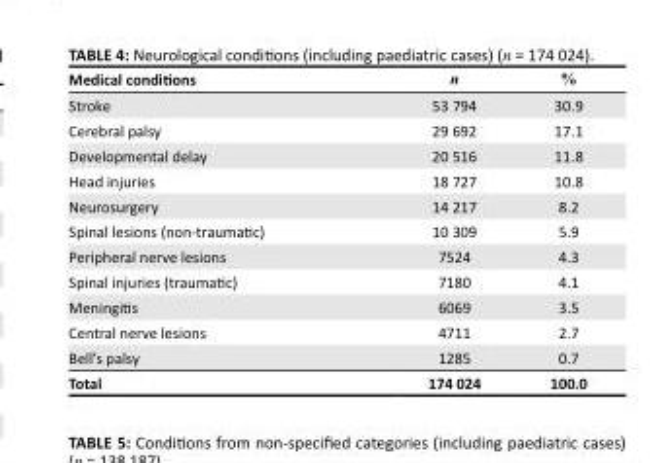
<table><thead><tr><td>Medical conditions</td><td>n</td><td>%</td></tr></thead><tbody><tr><td>Stroke</td><td>53 794</td><td>30.9</td></tr><tr><td>Cerebral palsy</td><td>29 692</td><td>17.1</td></tr><tr><td>Developmental delay</td><td>20 516</td><td>11.8</td></tr><tr><td>Head injuries</td><td>18 727</td><td>10.8</td></tr><tr><td>Neurosurgery</td><td>14 217</td><td>8.2</td></tr><tr><td>Spinal lesions (non-traumatic)</td><td>10 309</td><td>5.9</td></tr><tr><td>Peripheral nerve lesions</td><td>7524</td><td>4.3</td></tr><tr><td>Spinal injuries (traumatic)</td><td>7180</td><td>4.1</td></tr><tr><td>Meningitis</td><td>6069</td><td>3.5</td></tr><tr><td>Central nerve lesions</td><td>4711</td><td>2.7</td></tr><tr><td>Bell’s palsy</td><td>1285</td><td>0.7</td></tr><tr><td>Total</td><td>174 024</td><td>100.0</td></tr></tbody></table>